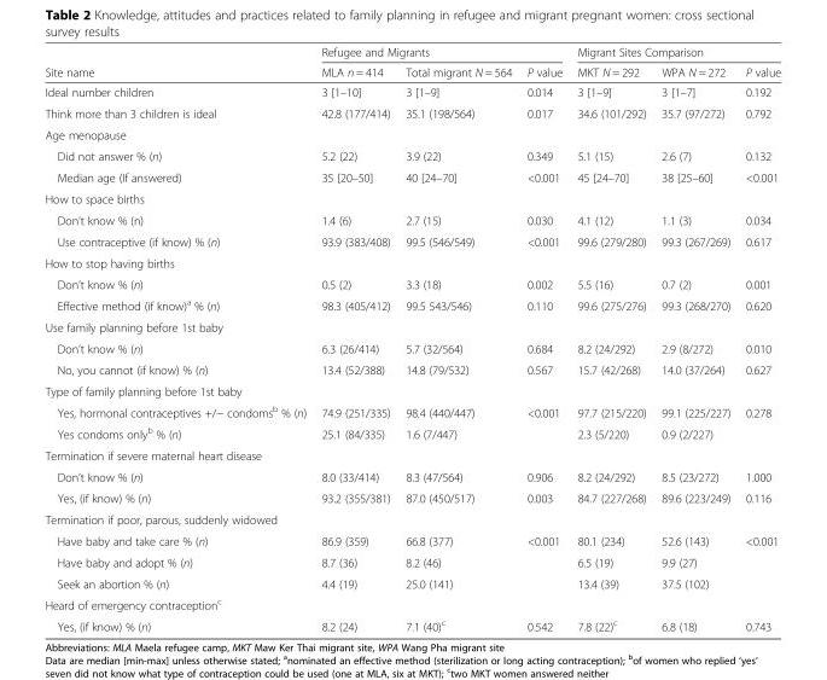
<table><thead><tr><td rowspan="2">Site name</td><td colspan="3">Refugee and Migrants</td><td colspan="3">Migrant Sites Comparison</td></tr><tr><td>MLA n = 414</td><td>Total migrant N = 564</td><td>P value</td><td>MKT N = 292</td><td>WPA N = 272</td><td>P value</td></tr></thead><tbody><tr><td>Ideal number children</td><td>3 [1–10]</td><td>3 [1–9]</td><td>0.014</td><td>3 [1–9]</td><td>3 [1–7]</td><td>0.192</td></tr><tr><td>Think more than 3 children is ideal</td><td>42.8 (177/414)</td><td>35.1 (198/564)</td><td>0.017</td><td>34.6 (101/292)</td><td>35.7 (97/272)</td><td>0.792</td></tr><tr><td colspan="7">Age menopause</td></tr><tr><td>Did not answer % (n)</td><td>5.2 (22)</td><td>3.9 (22)</td><td>0.349</td><td>5.1 (15)</td><td>2.6 (7)</td><td>0.132</td></tr><tr><td>Median age (If answered)</td><td>35 [20–50]</td><td>40 [24–70]</td><td>&lt;0.001</td><td>45 [24–70]</td><td>38 [25–60]</td><td>&lt;0.001</td></tr><tr><td colspan="7">How to space births</td></tr><tr><td>Don’t know % (n)</td><td>1.4 (6)</td><td>2.7 (15)</td><td>0.030</td><td>4.1 (12)</td><td>1.1 (3)</td><td>0.034</td></tr><tr><td>Use contraceptive (if know) % (n)</td><td>93.9 (383/408)</td><td>99.5 (546/549)</td><td>&lt;0.001</td><td>99.6 (279/280)</td><td>99.3 (267/269)</td><td>0.617</td></tr><tr><td colspan="7">How to stop having births</td></tr><tr><td>Don’t know % (n)</td><td>0.5 (2)</td><td>3.3 (18)</td><td>0.002</td><td>5.5 (16)</td><td>0.7 (2)</td><td>0.001</td></tr><tr><td>Effective method (if know)<sup>a</sup> % (n)</td><td>98.3 (405/412)</td><td>99.5 543/546)</td><td>0.110</td><td>99.6 (275/276)</td><td>99.3 (268/270)</td><td>0.620</td></tr><tr><td colspan="7">Use family planning before 1st baby</td></tr><tr><td>Don’t know % (n)</td><td>6.3 (26/414)</td><td>5.7 (32/564)</td><td>0.684</td><td>8.2 (24/292)</td><td>2.9 (8/272)</td><td>0.010</td></tr><tr><td>No, you cannot (if know) % (n)</td><td>13.4 (52/388)</td><td>14.8 (79/532)</td><td>0.567</td><td>15.7 (42/268)</td><td>14.0 (37/264)</td><td>0.627</td></tr><tr><td colspan="7">Type of family planning before 1st baby</td></tr><tr><td>Yes, hormonal contraceptives +/− condoms<sup>b</sup> % (n)</td><td>74.9 (251/335)</td><td>98.4 (440/447)</td><td rowspan="2">&lt;0.001</td><td>97.7 (215/220)</td><td>99.1 (225/227)</td><td rowspan="2">0.278</td></tr><tr><td>Yes condoms only<sup>b</sup> % (n)</td><td>25.1 (84/335)</td><td>1.6 (7/447)</td><td>2.3 (5/220)</td><td>0.9 (2/227)</td></tr><tr><td colspan="7">Termination if severe maternal heart disease</td></tr><tr><td>Don’t know % (n)</td><td>8.0 (33/414)</td><td>8.3 (47/564)</td><td>0.906</td><td>8.2 (24/292)</td><td>8.5 (23/272)</td><td>1.000</td></tr><tr><td>Yes, (if know) % (n)</td><td>93.2 (355/381)</td><td>87.0 (450/517)</td><td>0.003</td><td>84.7 (227/268)</td><td>89.6 (223/249)</td><td>0.116</td></tr><tr><td colspan="7">Termination if poor, parous, suddenly widowed</td></tr><tr><td>Have baby and take care % (n)</td><td>86.9 (359)</td><td>66.8 (377)</td><td rowspan="3">&lt;0.001</td><td>80.1 (234)</td><td>52.6 (143)</td><td rowspan="3">&lt;0.001</td></tr><tr><td>Have baby and adopt % (n)</td><td>8.7 (36)</td><td>8.2 (46)</td><td>6.5 (19)</td><td>9.9 (27)</td></tr><tr><td>Seek an abortion % (n)</td><td>4.4 (19)</td><td>25.0 (141)</td><td>13.4 (39)</td><td>37.5 (102)</td></tr><tr><td colspan="7">Heard of emergency contraception<sup>c</sup></td></tr><tr><td>Yes, (if know) % (n)</td><td>8.2 (24)</td><td>7.1 (40)<sup>c</sup></td><td>0.542</td><td>7.8 (22)<sup>c</sup></td><td>6.8 (18)</td><td>0.743</td></tr></tbody></table>